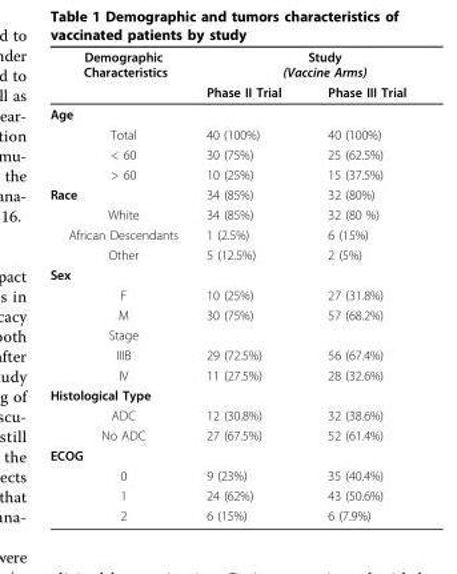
<table><thead><tr><td rowspan="2">Demographic Characteristics</td><td colspan="2">Study (Vaccine Arms)</td></tr><tr><td>Phase II Trial</td><td>Phase III Trial</td></tr></thead><tbody><tr><td colspan="3">Age</td></tr><tr><td>Total</td><td>40 (100%)</td><td>40 (100%)</td></tr><tr><td>&lt; 60</td><td>30 (75%)</td><td>25 (62.5%)</td></tr><tr><td>&gt; 60</td><td>10 (25%)</td><td>15 (37.5%)</td></tr><tr><td>Race</td><td>34 (85%)</td><td>32 (80%)</td></tr><tr><td>White</td><td>34 (85%)</td><td>32 (80 %)</td></tr><tr><td>African Descendants</td><td>1 (2.5%)</td><td>6 (15%)</td></tr><tr><td>Other</td><td>5 (12.5%)</td><td>2 (5%)</td></tr><tr><td colspan="3">Sex</td></tr><tr><td>F</td><td>10 (25%)</td><td>27 (31.8%)</td></tr><tr><td>M</td><td>30 (75%)</td><td>57 (68.2%)</td></tr><tr><td colspan="3">Stage</td></tr><tr><td>IIIB</td><td>29 (72.5%)</td><td>56 (67.4%)</td></tr><tr><td>IV</td><td>11 (27.5%)</td><td>28 (32.6%)</td></tr><tr><td colspan="3">Histological Type</td></tr><tr><td>ADC</td><td>12 (30.8%)</td><td>32 (38.6%)</td></tr><tr><td>No ADC</td><td>27 (67.5%)</td><td>52 (61.4%)</td></tr><tr><td colspan="3">ECOG</td></tr><tr><td>0</td><td>9 (23%)</td><td>35 (40.4%)</td></tr><tr><td>1</td><td>24 (62%)</td><td>43 (50.6%)</td></tr><tr><td>2</td><td>6 (15%)</td><td>6 (7.9%)</td></tr></tbody></table>